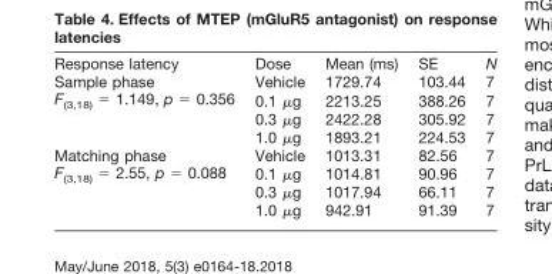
<table><thead><tr><td>Response latency</td><td>Dose</td><td>Mean (ms)</td><td>SE</td><td>N</td></tr></thead><tbody><tr><td rowspan="4">Sample phase F<sub>(3,18)</sub> = 1.149, p = 0.356</td><td>Vehicle</td><td>1729.74</td><td>103.44</td><td>7</td></tr><tr><td>0.1 µg</td><td>2213.25</td><td>388.26</td><td>7</td></tr><tr><td>0.3 µg</td><td>2422.28</td><td>305.92</td><td>7</td></tr><tr><td>1.0 µg</td><td>1893.21</td><td>224.53</td><td>7</td></tr><tr><td rowspan="4">Matching phase F<sub>(3,18)</sub> = 2.55, p = 0.088</td><td>Vehicle</td><td>1013.31</td><td>82.56</td><td>7</td></tr><tr><td>0.1 µg</td><td>1014.81</td><td>90.96</td><td>7</td></tr><tr><td>0.3 µg</td><td>1017.94</td><td>66.11</td><td>7</td></tr><tr><td>1.0 µg</td><td>942.91</td><td>91.39</td><td>7</td></tr></tbody></table>